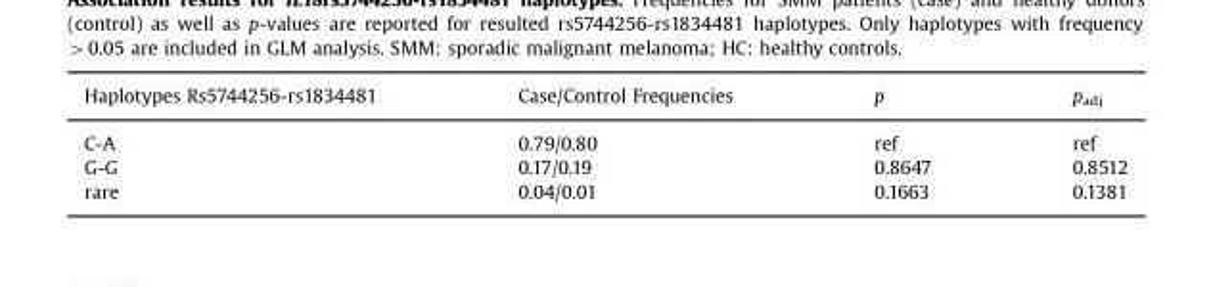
<table><tbody><tr><td>Haplotypes Rs5744256-rs1834481</td><td>Case/Control Frequencies</td><td>p</td><td>p<sub>adj</sub></td></tr><tr><td>C-A</td><td>0.79/0.80</td><td>ref</td><td>ref</td></tr><tr><td>G-G</td><td>0.17/0.19</td><td>0.8647</td><td>0.8512</td></tr><tr><td>rare</td><td>0.04/0.01</td><td>0.1663</td><td>0.1381</td></tr></tbody></table>